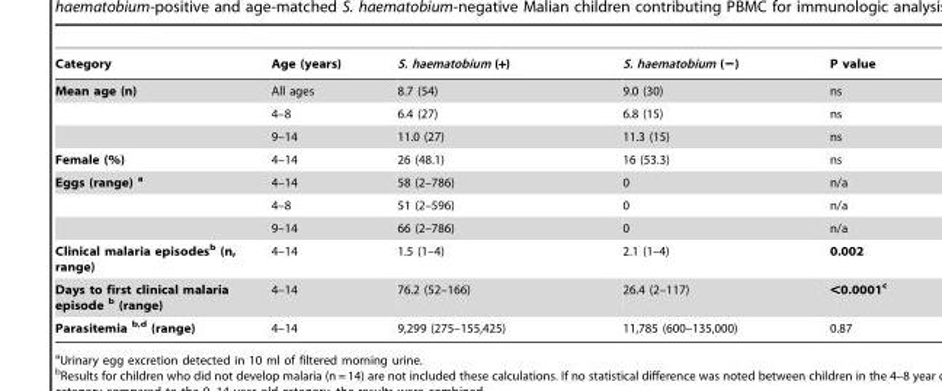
<table><thead><tr><td>Category</td><td>Age (years)</td><td>S. haematobium (+)</td><td>S. haematobium (−)</td><td>P value</td></tr></thead><tbody><tr><td rowspan="3">Mean age (n)</td><td>All ages</td><td>8.7 (54)</td><td>9.0 (30)</td><td>ns</td></tr><tr><td>4–8</td><td>6.4 (27)</td><td>6.8 (15)</td><td>ns</td></tr><tr><td>9–14</td><td>11.0 (27)</td><td>11.3 (15)</td><td>ns</td></tr><tr><td>Female (%)</td><td>4–14</td><td>26 (48.1)</td><td>16 (53.3)</td><td>ns</td></tr><tr><td rowspan="3">Eggs (range) a</td><td>4–14</td><td>58 (2–786)</td><td>0</td><td>n/a</td></tr><tr><td>4–8</td><td>51 (2–596)</td><td>0</td><td>n/a</td></tr><tr><td>9–14</td><td>66 (2–786)</td><td>0</td><td>n/a</td></tr><tr><td>Clinical malaria episodesb (n, range)</td><td>4–14</td><td>1.5 (1–4)</td><td>2.1 (1–4)</td><td>0.002</td></tr><tr><td>Days to first clinical malaria episode b (range)</td><td>4–14</td><td>76.2 (52–166)</td><td>26.4 (2–117)</td><td>&lt;0.0001c</td></tr><tr><td>Parasitemia b,d (range)</td><td>4–14</td><td>9,299 (275–155,425)</td><td>11,785 (600–135,000)</td><td>0.87</td></tr></tbody></table>